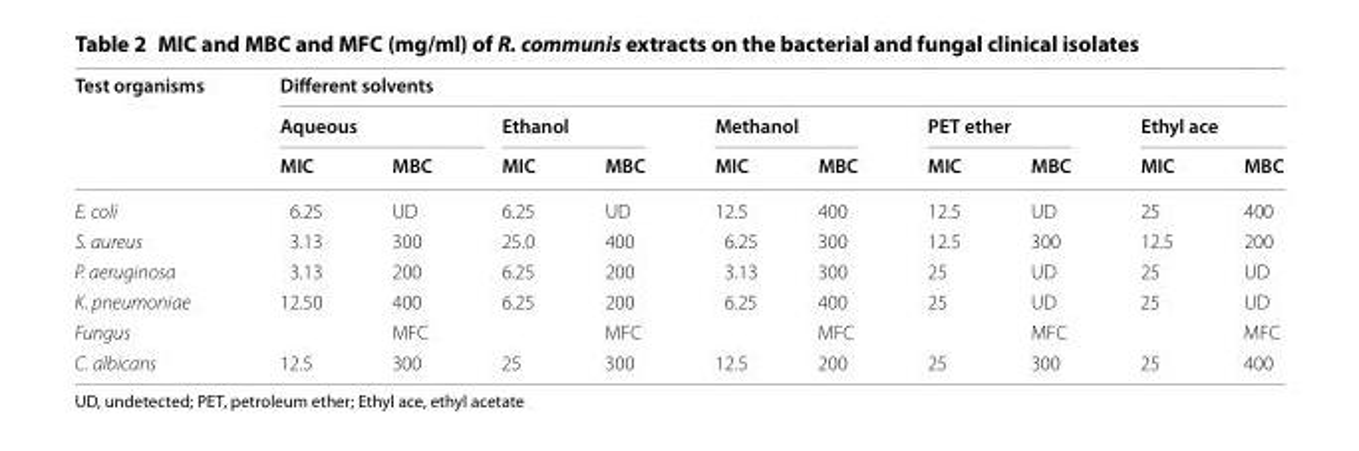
<table><thead><tr><td rowspan="3">Test organisms</td><td colspan="10">Different solvents</td></tr><tr><td colspan="2">Aqueous</td><td colspan="2">Ethanol</td><td colspan="2">Methanol</td><td colspan="2">PET ether</td><td colspan="2">Ethyl ace</td></tr><tr><td>MIC</td><td>MBC</td><td>MIC</td><td>MBC</td><td>MIC</td><td>MBC</td><td>MIC</td><td>MBC</td><td>MIC</td><td>MBC</td></tr></thead><tbody><tr><td>E. coli</td><td>6.25</td><td>UD</td><td>6.25</td><td>UD</td><td>12.5</td><td>400</td><td>12.5</td><td>UD</td><td>25</td><td>400</td></tr><tr><td>S. aureus</td><td>3.13</td><td>300</td><td>25.0</td><td>400</td><td>6.25</td><td>300</td><td>12.5</td><td>300</td><td>12.5</td><td>200</td></tr><tr><td>P. aeruginosa</td><td>3.13</td><td>200</td><td>6.25</td><td>200</td><td>3.13</td><td>300</td><td>25</td><td>UD</td><td>25</td><td>UD</td></tr><tr><td>K. pneumoniae</td><td>12.50</td><td>400</td><td>6.25</td><td>200</td><td>6.25</td><td>400</td><td>25</td><td>UD</td><td>25</td><td>UD</td></tr><tr><td>Fungus</td><td></td><td>MFC</td><td></td><td>MFC</td><td></td><td>MFC</td><td></td><td>MFC</td><td></td><td>MFC</td></tr><tr><td>C. albicans</td><td>12.5</td><td>300</td><td>25</td><td>300</td><td>12.5</td><td>200</td><td>25</td><td>300</td><td>25</td><td>400</td></tr></tbody></table>